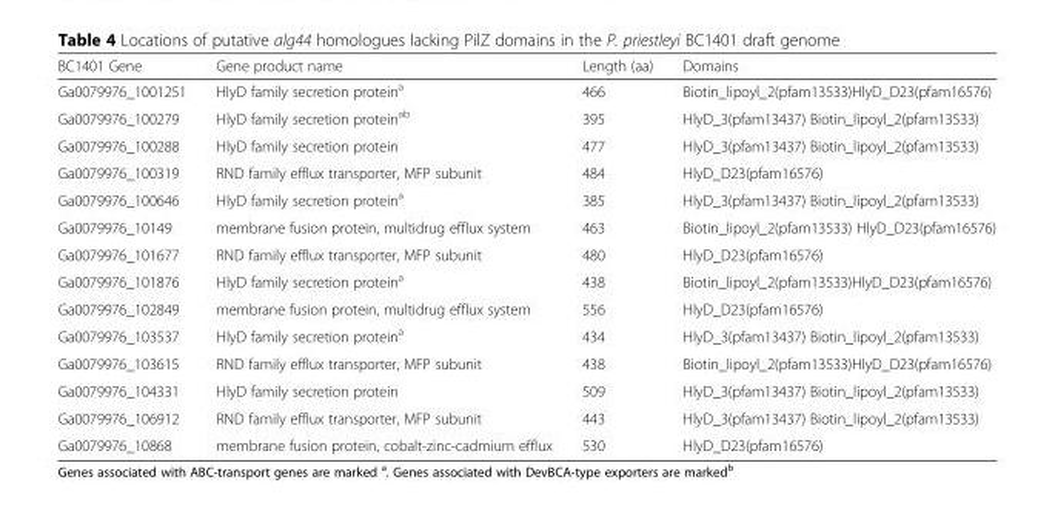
<table><thead><tr><td>BC1401 Gene</td><td>Gene product name</td><td>Length (aa)</td><td>Domains</td></tr></thead><tbody><tr><td>Ga0079976_1001251</td><td>HlyD family secretion protein<sup>a</sup></td><td>466</td><td>Biotin_lipoyl_2(pfam13533)HlyD_D23(pfam16576)</td></tr><tr><td>Ga0079976_100279</td><td>HlyD family secretion protein<sup>ab</sup></td><td>395</td><td>HlyD_3(pfam13437) Biotin_lipoyl_2(pfam13533)</td></tr><tr><td>Ga0079976_100288</td><td>HlyD family secretion protein</td><td>477</td><td>HlyD_3(pfam13437) Biotin_lipoyl_2(pfam13533)</td></tr><tr><td>Ga0079976_100319</td><td>RND family efflux transporter, MFP subunit</td><td>484</td><td>HlyD_D23(pfam16576)</td></tr><tr><td>Ga0079976_100646</td><td>HlyD family secretion protein<sup>a</sup></td><td>385</td><td>HlyD_3(pfam13437) Biotin_lipoyl_2(pfam13533)</td></tr><tr><td>Ga0079976_10149</td><td>membrane fusion protein, multidrug efflux system</td><td>463</td><td>Biotin_lipoyl_2(pfam13533) HlyD_D23(pfam16576)</td></tr><tr><td>Ga0079976_101677</td><td>RND family efflux transporter, MFP subunit</td><td>480</td><td>HlyD_D23(pfam16576)</td></tr><tr><td>Ga0079976_101876</td><td>HlyD family secretion protein<sup>a</sup></td><td>438</td><td>Biotin_lipoyl_2(pfam13533)HlyD_D23(pfam16576)</td></tr><tr><td>Ga0079976_102849</td><td>membrane fusion protein, multidrug efflux system</td><td>556</td><td>HlyD_D23(pfam16576)</td></tr><tr><td>Ga0079976_103537</td><td>HlyD family secretion protein<sup>a</sup></td><td>434</td><td>HlyD_3(pfam13437) Biotin_lipoyl_2(pfam13533)</td></tr><tr><td>Ga0079976_103615</td><td>RND family efflux transporter, MFP subunit</td><td>438</td><td>Biotin_lipoyl_2(pfam13533)HlyD_D23(pfam16576)</td></tr><tr><td>Ga0079976_104331</td><td>HlyD family secretion protein</td><td>509</td><td>HlyD_3(pfam13437) Biotin_lipoyl_2(pfam13533)</td></tr><tr><td>Ga0079976_106912</td><td>RND family efflux transporter, MFP subunit</td><td>443</td><td>HlyD_3(pfam13437) Biotin_lipoyl_2(pfam13533)</td></tr><tr><td>Ga0079976_10868</td><td>membrane fusion protein, cobalt-zinc-cadmium efflux</td><td>530</td><td>HlyD_D23(pfam16576)</td></tr></tbody></table>